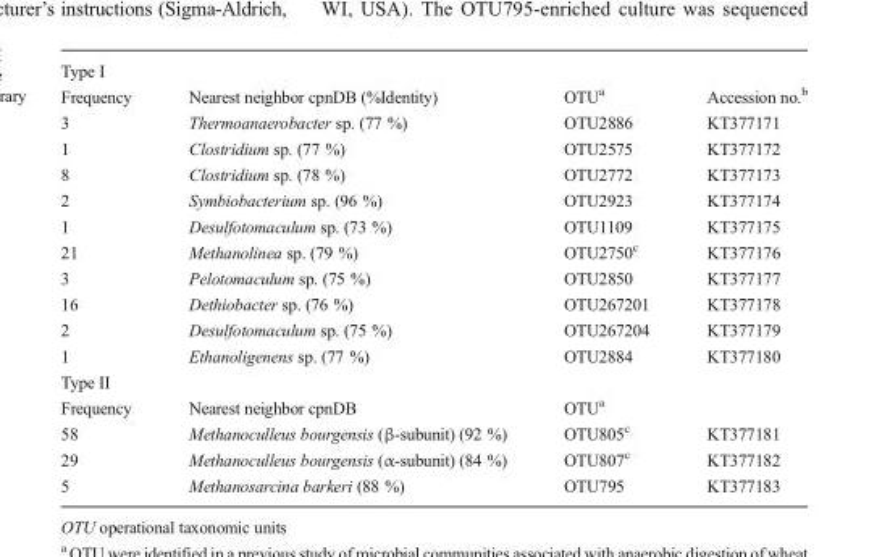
<table><tbody><tr><td colspan="4">Type I</td></tr><tr><td>Frequency</td><td>Nearest neighbor cpnDB (%Identity)</td><td>OTU<sup>a</sup></td><td>Accession no.<sup>b</sup></td></tr><tr><td>3</td><td>Thermoanaerobacter sp. (77 %)</td><td>OTU2886</td><td>KT377171</td></tr><tr><td>1</td><td>Clostridium sp. (77 %)</td><td>OTU2575</td><td>KT377172</td></tr><tr><td>8</td><td>Clostridium sp. (78 %)</td><td>OTU2772</td><td>KT377173</td></tr><tr><td>2</td><td>Symbiobacterium sp. (96 %)</td><td>OTU2923</td><td>KT377174</td></tr><tr><td>1</td><td>Desulfotomaculum sp. (73 %)</td><td>OTU1109</td><td>KT377175</td></tr><tr><td>21</td><td>Methanolinea sp. (79 %)</td><td>OTU2750<sup>c</sup></td><td>KT377176</td></tr><tr><td>3</td><td>Pelotomaculum sp. (75 %)</td><td>OTU2850</td><td>KT377177</td></tr><tr><td>16</td><td>Dethiobacter sp. (76 %)</td><td>OTU267201</td><td>KT377178</td></tr><tr><td>2</td><td>Desulfotomaculum sp. (75 %)</td><td>OTU267204</td><td>KT377179</td></tr><tr><td>1</td><td>Ethanoligenens sp. (77 %)</td><td>OTU2884</td><td>KT377180</td></tr><tr><td colspan="4">Type II</td></tr><tr><td>Frequency</td><td>Nearest neighbor cpnDB</td><td>OTU<sup>a</sup></td><td></td></tr><tr><td>58</td><td>Methanoculleus bourgensis (β-subunit) (92 %)</td><td>OTU805<sup>c</sup></td><td>KT377181</td></tr><tr><td>29</td><td>Methanoculleus bourgensis (α-subunit) (84 %)</td><td>OTU807<sup>c</sup></td><td>KT377182</td></tr><tr><td>5</td><td>Methanosarcina barkeri (88 %)</td><td>OTU795</td><td>KT377183</td></tr></tbody></table>